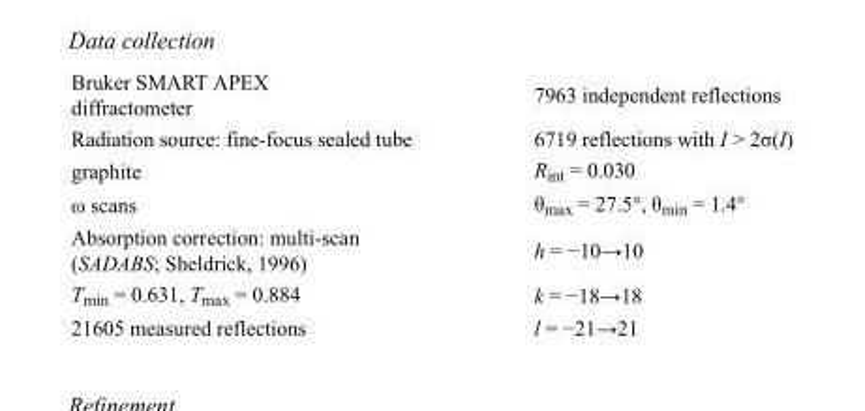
<table><tbody><tr><td>Bruker SMART APEX diffractometer</td><td>7963 independent reflections</td></tr><tr><td>Radiation source: fine-focus sealed tube</td><td>6719 reflections with I &gt; 2σ(I)</td></tr><tr><td>graphite</td><td>R<sub>int</sub> = 0.030</td></tr><tr><td>ω scans</td><td>θ<sub>max</sub> = 27.5°, θ<sub>min</sub> = 1.4°</td></tr><tr><td>Absorption correction: multi-scan (SADABS; Sheldrick, 1996)</td><td>h = −10→10</td></tr><tr><td>T<sub>min</sub> = 0.631, T<sub>max</sub> = 0.884</td><td>k = −18→18</td></tr><tr><td>21605 measured reflections</td><td>l = −21→21</td></tr></tbody></table>